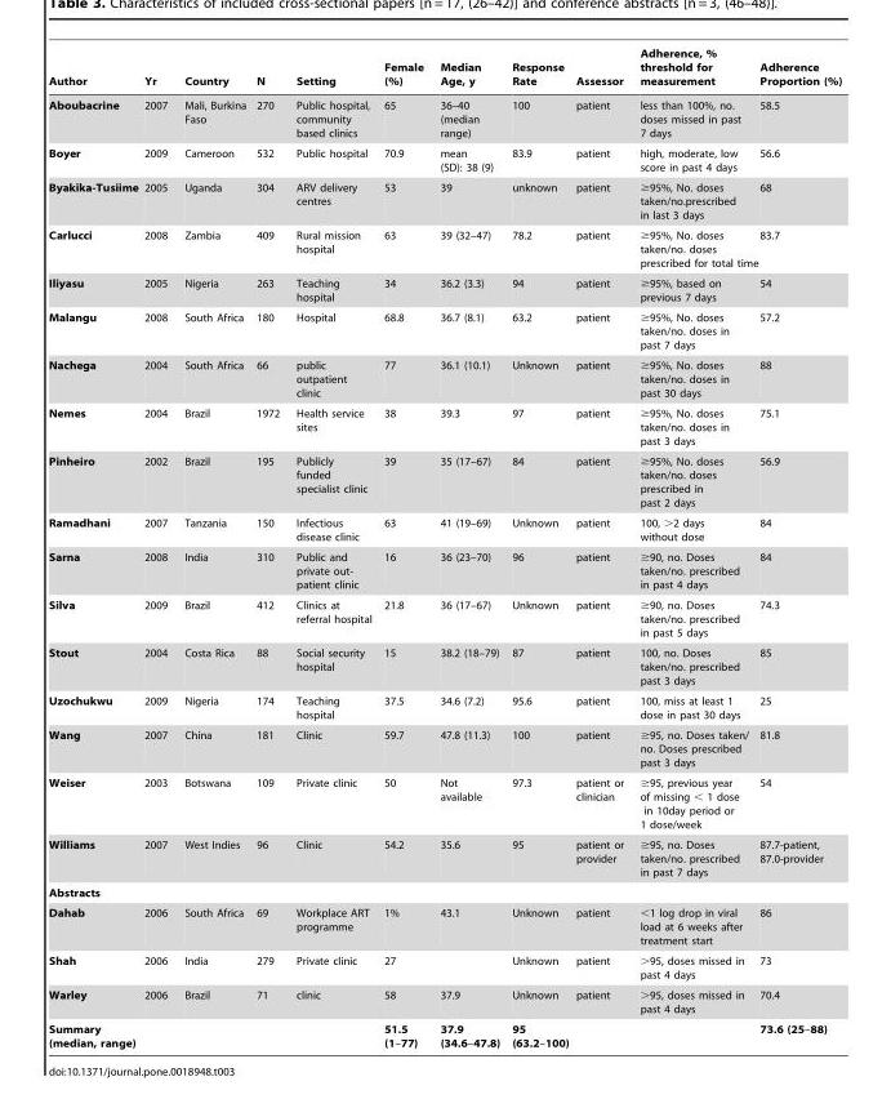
<table><thead><tr><td>Author</td><td>Yr</td><td>Country</td><td>N</td><td>Setting</td><td>Female (%)</td><td>Median Age, y</td><td>Response Rate</td><td>Assessor</td><td>Adherence, % threshold for measurement</td><td>Adherence Proportion (%)</td></tr></thead><tbody><tr><td>Aboubacrine</td><td>2007</td><td>Mali, Burkina Faso</td><td>270</td><td>Public hospital, community based clinics</td><td>65</td><td>36–40 (median range)</td><td>100</td><td>patient</td><td>less than 100%, no. doses missed in past 7 days</td><td>58.5</td></tr><tr><td>Boyer</td><td>2009</td><td>Cameroon</td><td>532</td><td>Public hospital</td><td>70.9</td><td>mean (SD): 38 (9)</td><td>83.9</td><td>patient</td><td>high, moderate, low score in past 4 days</td><td>56.6</td></tr><tr><td>Byakika-Tusiime</td><td>2005</td><td>Uganda</td><td>304</td><td>ARV delivery centres</td><td>53</td><td>39</td><td>unknown</td><td>patient</td><td>≥95%, No. doses taken/no.prescribed in last 3 days</td><td>68</td></tr><tr><td>Carlucci</td><td>2008</td><td>Zambia</td><td>409</td><td>Rural mission hospital</td><td>63</td><td>39 (32–47)</td><td>78.2</td><td>patient</td><td>≥95%, No. doses taken/no. doses prescribed for total time</td><td>83.7</td></tr><tr><td>Iliyasu</td><td>2005</td><td>Nigeria</td><td>263</td><td>Teaching hospital</td><td>34</td><td>36.2 (3.3)</td><td>94</td><td>patient</td><td>≥95%, based on previous 7 days</td><td>54</td></tr><tr><td>Malangu</td><td>2008</td><td>South Africa</td><td>180</td><td>Hospital</td><td>68.8</td><td>36.7 (8.1)</td><td>63.2</td><td>patient</td><td>≥95%, No. doses taken/no. doses in past 7 days</td><td>57.2</td></tr><tr><td>Nachega</td><td>2004</td><td>South Africa</td><td>66</td><td>public outpatient clinic</td><td>77</td><td>36.1 (10.1)</td><td>Unknown</td><td>patient</td><td>≥95%, No. doses taken/no. doses in past 30 days</td><td>88</td></tr><tr><td>Nemes</td><td>2004</td><td>Brazil</td><td>1972</td><td>Health service sites</td><td>38</td><td>39.3</td><td>97</td><td>patient</td><td>≥95%, No. doses taken/no. doses in past 3 days</td><td>75.1</td></tr><tr><td>Pinheiro</td><td>2002</td><td>Brazil</td><td>195</td><td>Publicly funded specialist clinic</td><td>39</td><td>35 (17–67)</td><td>84</td><td>patient</td><td>≥95%, No. doses taken/no. doses prescribed in past 2 days</td><td>56.9</td></tr><tr><td>Ramadhani</td><td>2007</td><td>Tanzania</td><td>150</td><td>Infectious disease clinic</td><td>63</td><td>41 (19–69)</td><td>Unknown</td><td>patient</td><td>100, &gt;2 days without dose</td><td>84</td></tr><tr><td>Sarna</td><td>2008</td><td>India</td><td>310</td><td>Public and private out- patient clinic</td><td>16</td><td>36 (23–70)</td><td>96</td><td>patient</td><td>≥90, no. Doses taken/no. prescribed in past 4 days</td><td>84</td></tr><tr><td>Silva</td><td>2009</td><td>Brazil</td><td>412</td><td>Clinics at referral hospital</td><td>21.8</td><td>36 (17–67)</td><td>Unknown</td><td>patient</td><td>≥90, no. Doses taken/no. prescribed in past 5 days</td><td>74.3</td></tr><tr><td>Stout</td><td>2004</td><td>Costa Rica</td><td>88</td><td>Social security hospital</td><td>15</td><td>38.2 (18–79)</td><td>87</td><td>patient</td><td>100, no. Doses taken/no. prescribed past 3 days</td><td>85</td></tr><tr><td>Uzochukwu</td><td>2009</td><td>Nigeria</td><td>174</td><td>Teaching hospital</td><td>37.5</td><td>34.6 (7.2)</td><td>95.6</td><td>patient</td><td>100, miss at least 1 dose in past 30 days</td><td>25</td></tr><tr><td>Wang</td><td>2007</td><td>China</td><td>181</td><td>Clinic</td><td>59.7</td><td>47.8 (11.3)</td><td>100</td><td>patient</td><td>≥95, no. Doses taken/ no. Doses prescribed past 3 days</td><td>81.8</td></tr><tr><td>Weiser</td><td>2003</td><td>Botswana</td><td>109</td><td>Private clinic</td><td>50</td><td>Not available</td><td>97.3</td><td>patient or clinician</td><td>≥95, previous year of missing &lt; 1 dose in 10day period or 1 dose/week</td><td>54</td></tr><tr><td>Williams</td><td>2007</td><td>West Indies</td><td>96</td><td>Clinic</td><td>54.2</td><td>35.6</td><td>95</td><td>patient or provider</td><td>≥95, no. Doses taken/no. prescribed in past 7 days</td><td>87.7-patient, 87.0-provider</td></tr><tr><td colspan="11">Abstracts</td></tr><tr><td>Dahab</td><td>2006</td><td>South Africa</td><td>69</td><td>Workplace ART programme</td><td>1%</td><td>43.1</td><td>Unknown</td><td>patient</td><td>&lt;1 log drop in viral load at 6 weeks after treatment start</td><td>86</td></tr><tr><td>Shah</td><td>2006</td><td>India</td><td>279</td><td>Private clinic</td><td>27</td><td></td><td>Unknown</td><td>patient</td><td>&gt;95, doses missed in past 4 days</td><td>73</td></tr><tr><td>Warley</td><td>2006</td><td>Brazil</td><td>71</td><td>clinic</td><td>58</td><td>37.9</td><td>Unknown</td><td>patient</td><td>&gt;95, doses missed in past 4 days</td><td>70.4</td></tr><tr><td>Summary (median, range)</td><td></td><td></td><td></td><td></td><td>51.5 (1–77)</td><td>37.9 (34.6–47.8)</td><td>95 (63.2–100)</td><td></td><td></td><td>73.6 (25–88)</td></tr></tbody></table>